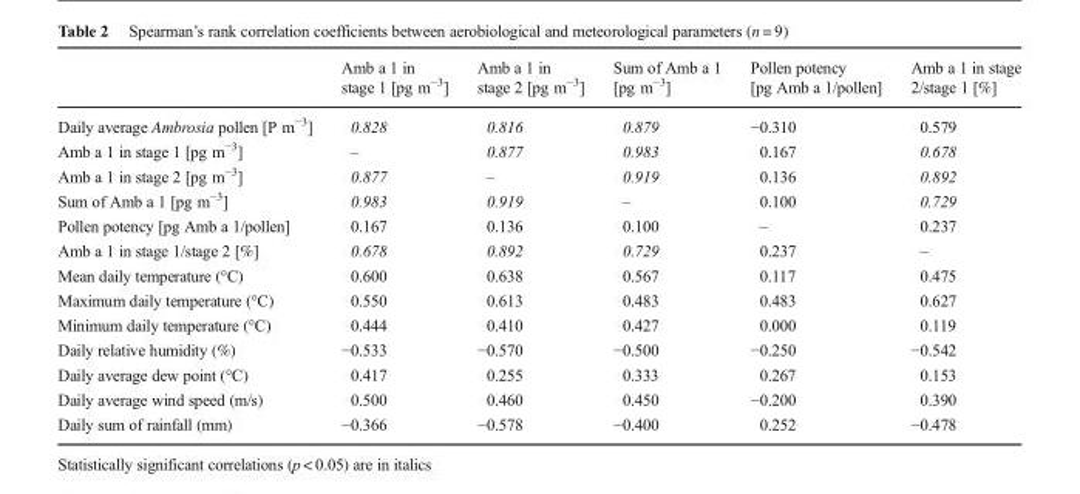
<table><thead><tr><td></td><td>Amb a 1 in stage 1 [pg m<sup>−3</sup>]</td><td>Amb a 1 in stage 2 [pg m<sup>−3</sup>]</td><td>Sum of Amb a 1 [pg m<sup>−3</sup>]</td><td>Pollen potency [pg Amb a 1/pollen]</td><td>Amb a 1 in stage 2/stage 1 [%]</td></tr></thead><tbody><tr><td>Daily average Ambrosia pollen [P m<sup>−3</sup>]</td><td>0.828</td><td>0.816</td><td>0.879</td><td>−0.310</td><td>0.579</td></tr><tr><td>Amb a 1 in stage 1 [pg m<sup>−3</sup>]</td><td>–</td><td>0.877</td><td>0.983</td><td>0.167</td><td>0.678</td></tr><tr><td>Amb a 1 in stage 2 [pg m<sup>−3</sup>]</td><td>0.877</td><td>–</td><td>0.919</td><td>0.136</td><td>0.892</td></tr><tr><td>Sum of Amb a 1 [pg m<sup>−3</sup>]</td><td>0.983</td><td>0.919</td><td>–</td><td>0.100</td><td>0.729</td></tr><tr><td>Pollen potency [pg Amb a 1/pollen]</td><td>0.167</td><td>0.136</td><td>0.100</td><td>–</td><td>0.237</td></tr><tr><td>Amb a 1 in stage 1/stage 2 [%]</td><td>0.678</td><td>0.892</td><td>0.729</td><td>0.237</td><td>–</td></tr><tr><td>Mean daily temperature (°C)</td><td>0.600</td><td>0.638</td><td>0.567</td><td>0.117</td><td>0.475</td></tr><tr><td>Maximum daily temperature (°C)</td><td>0.550</td><td>0.613</td><td>0.483</td><td>0.483</td><td>0.627</td></tr><tr><td>Minimum daily temperature (°C)</td><td>0.444</td><td>0.410</td><td>0.427</td><td>0.000</td><td>0.119</td></tr><tr><td>Daily relative humidity (%)</td><td>−0.533</td><td>−0.570</td><td>−0.500</td><td>−0.250</td><td>−0.542</td></tr><tr><td>Daily average dew point (°C)</td><td>0.417</td><td>0.255</td><td>0.333</td><td>0.267</td><td>0.153</td></tr><tr><td>Daily average wind speed (m/s)</td><td>0.500</td><td>0.460</td><td>0.450</td><td>−0.200</td><td>0.390</td></tr><tr><td>Daily sum of rainfall (mm)</td><td>−0.366</td><td>−0.578</td><td>−0.400</td><td>0.252</td><td>−0.478</td></tr></tbody></table>